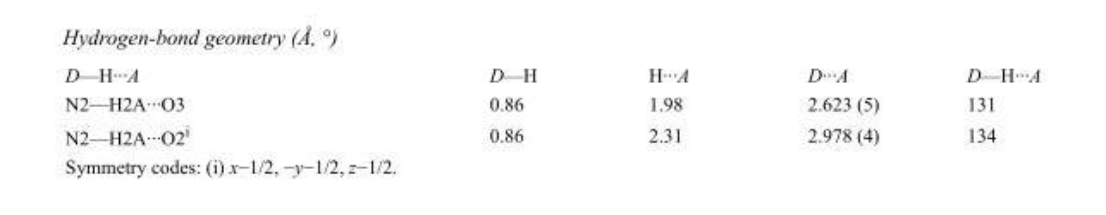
<table><tbody><tr><td>D—H···A</td><td>D—H</td><td>H···A</td><td>D···A</td><td>D—H···A</td></tr><tr><td>N2—H2A···O3</td><td>0.86</td><td>1.98</td><td>2.623 (5)</td><td>131</td></tr><tr><td>N2—H2A···O2<sup>i</sup></td><td>0.86</td><td>2.31</td><td>2.978 (4)</td><td>134</td></tr></tbody></table>